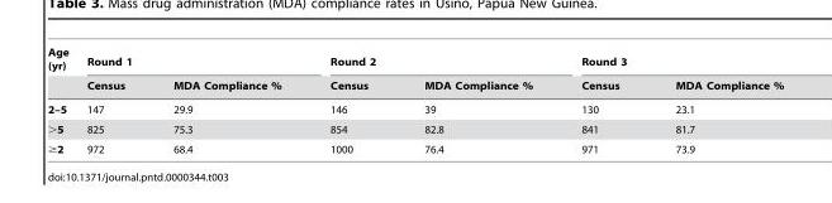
<table><thead><tr><td rowspan="2">Age (yr)</td><td colspan="2">Round 1</td><td colspan="2">Round 2</td><td colspan="2">Round 3</td></tr><tr><td>Census</td><td>MDA Compliance %</td><td>Census</td><td>MDA Compliance %</td><td>Census</td><td>MDA Compliance %</td></tr></thead><tbody><tr><td>2–5</td><td>147</td><td>29.9</td><td>146</td><td>39</td><td>130</td><td>23.1</td></tr><tr><td>&gt;5</td><td>825</td><td>75.3</td><td>854</td><td>82.8</td><td>841</td><td>81.7</td></tr><tr><td>≥2</td><td>972</td><td>68.4</td><td>1000</td><td>76.4</td><td>971</td><td>73.9</td></tr></tbody></table>